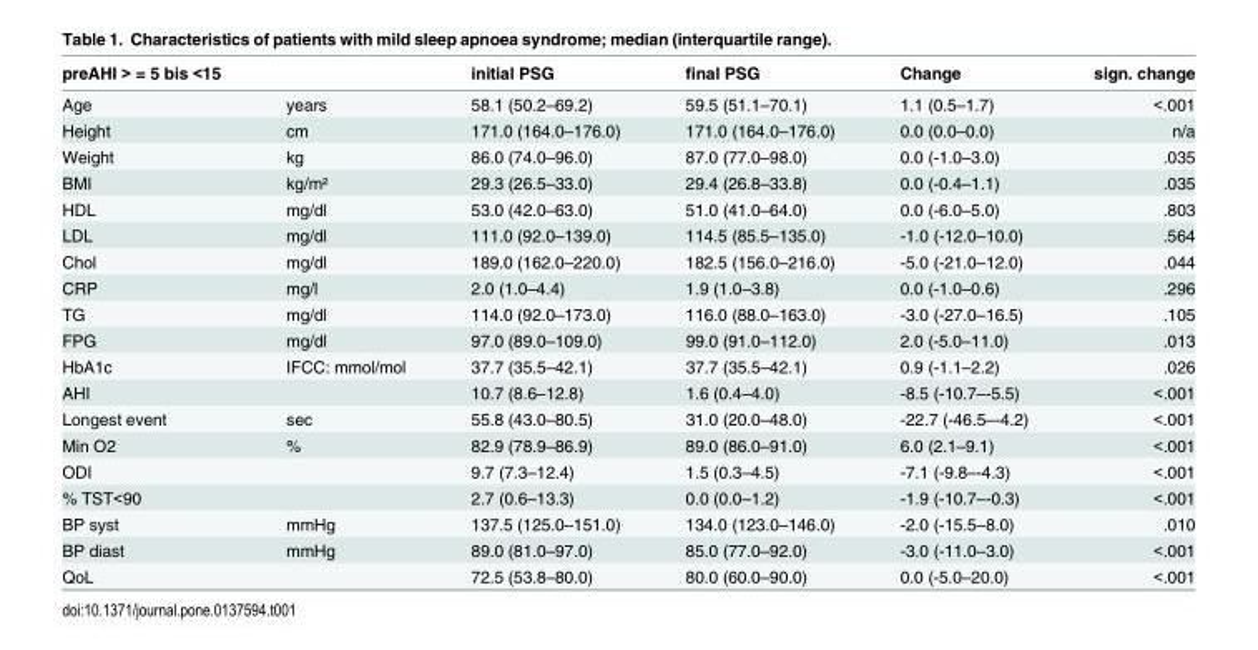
<table><thead><tr><td>preAHI &gt; = 5 bis &lt;15</td><td></td><td>initial PSG</td><td>final PSG</td><td>Change</td><td>sign. change</td></tr></thead><tbody><tr><td>Age</td><td>years</td><td>58.1 (50.2–69.2)</td><td>59.5 (51.1–70.1)</td><td>1.1 (0.5–1.7)</td><td>&lt;.001</td></tr><tr><td>Height</td><td>cm</td><td>171.0 (164.0–176.0)</td><td>171.0 (164.0–176.0)</td><td>0.0 (0.0–0.0)</td><td>n/a</td></tr><tr><td>Weight</td><td>kg</td><td>86.0 (74.0–96.0)</td><td>87.0 (77.0–98.0)</td><td>0.0 (-1.0–3.0)</td><td>.035</td></tr><tr><td>BMI</td><td>kg/m²</td><td>29.3 (26.5–33.0)</td><td>29.4 (26.8–33.8)</td><td>0.0 (-0.4–1.1)</td><td>.035</td></tr><tr><td>HDL</td><td>mg/dl</td><td>53.0 (42.0–63.0)</td><td>51.0 (41.0–64.0)</td><td>0.0 (-6.0–5.0)</td><td>.803</td></tr><tr><td>LDL</td><td>mg/dl</td><td>111.0 (92.0–139.0)</td><td>114.5 (85.5–135.0)</td><td>-1.0 (-12.0–10.0)</td><td>.564</td></tr><tr><td>Chol</td><td>mg/dl</td><td>189.0 (162.0–220.0)</td><td>182.5 (156.0–216.0)</td><td>-5.0 (-21.0–12.0)</td><td>.044</td></tr><tr><td>CRP</td><td>mg/l</td><td>2.0 (1.0–4.4)</td><td>1.9 (1.0–3.8)</td><td>0.0 (-1.0–0.6)</td><td>.296</td></tr><tr><td>TG</td><td>mg/dl</td><td>114.0 (92.0–173.0)</td><td>116.0 (88.0–163.0)</td><td>-3.0 (-27.0–16.5)</td><td>.105</td></tr><tr><td>FPG</td><td>mg/dl</td><td>97.0 (89.0–109.0)</td><td>99.0 (91.0–112.0)</td><td>2.0 (-5.0–11.0)</td><td>.013</td></tr><tr><td>HbA1c</td><td>IFCC: mmol/mol</td><td>37.7 (35.5–42.1)</td><td>37.7 (35.5–42.1)</td><td>0.9 (-1.1–2.2)</td><td>.026</td></tr><tr><td>AHI</td><td></td><td>10.7 (8.6–12.8)</td><td>1.6 (0.4–4.0)</td><td>-8.5 (-10.7–-5.5)</td><td>&lt;.001</td></tr><tr><td>Longest event</td><td>sec</td><td>55.8 (43.0–80.5)</td><td>31.0 (20.0–48.0)</td><td>-22.7 (-46.5–-4.2)</td><td>&lt;.001</td></tr><tr><td>Min O2</td><td>%</td><td>82.9 (78.9–86.9)</td><td>89.0 (86.0–91.0)</td><td>6.0 (2.1–9.1)</td><td>&lt;.001</td></tr><tr><td>ODI</td><td></td><td>9.7 (7.3–12.4)</td><td>1.5 (0.3–4.5)</td><td>-7.1 (-9.8–-4.3)</td><td>&lt;.001</td></tr><tr><td>% TST&lt;90</td><td></td><td>2.7 (0.6–13.3)</td><td>0.0 (0.0–1.2)</td><td>-1.9 (-10.7–-0.3)</td><td>&lt;.001</td></tr><tr><td>BP syst</td><td>mmHg</td><td>137.5 (125.0–151.0)</td><td>134.0 (123.0–146.0)</td><td>-2.0 (-15.5–8.0)</td><td>.010</td></tr><tr><td>BP diast</td><td>mmHg</td><td>89.0 (81.0–97.0)</td><td>85.0 (77.0–92.0)</td><td>-3.0 (-11.0–3.0)</td><td>&lt;.001</td></tr><tr><td>QoL</td><td></td><td>72.5 (53.8–80.0)</td><td>80.0 (60.0–90.0)</td><td>0.0 (-5.0–20.0)</td><td>&lt;.001</td></tr></tbody></table>